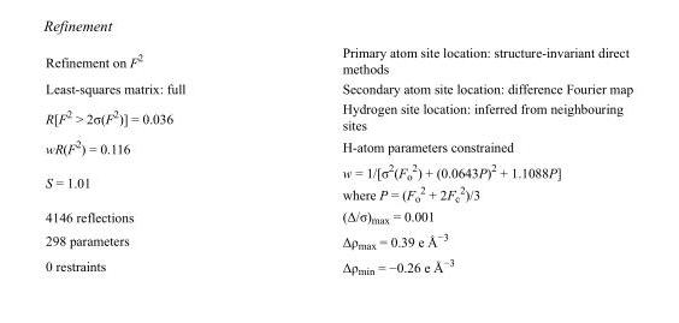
<table><tbody><tr><td>Refinement on F<sup>2</sup></td><td>Primary atom site location: structure-invariant direct methods</td></tr><tr><td>Least-squares matrix: full</td><td>Secondary atom site location: difference Fourier map</td></tr><tr><td>R[F<sup>2</sup> &gt; 2σ(F<sup>2</sup>)] = 0.036</td><td>Hydrogen site location: inferred from neighbouring sites</td></tr><tr><td>wR(F<sup>2</sup>) = 0.116</td><td>H-atom parameters constrained</td></tr><tr><td>S = 1.01</td><td>w = 1/[σ<sup>2</sup>(F<sub>o</sub> <sup>2</sup>) + (0.0643P)<sup>2</sup> + 1.1088P] where P = (F<sub>o</sub> <sup>2</sup> + 2F<sub>c</sub> <sup>2</sup>)/3</td></tr><tr><td>4146 reflections</td><td>(Δ/σ)<sub>max</sub> = 0.001</td></tr><tr><td>298 parameters</td><td>Δρ<sub>max</sub> = 0.39 e Å<sup>−3</sup></td></tr><tr><td>0 restraints</td><td>Δρ<sub>min</sub> = −0.26 e Å<sup>−3</sup></td></tr></tbody></table>